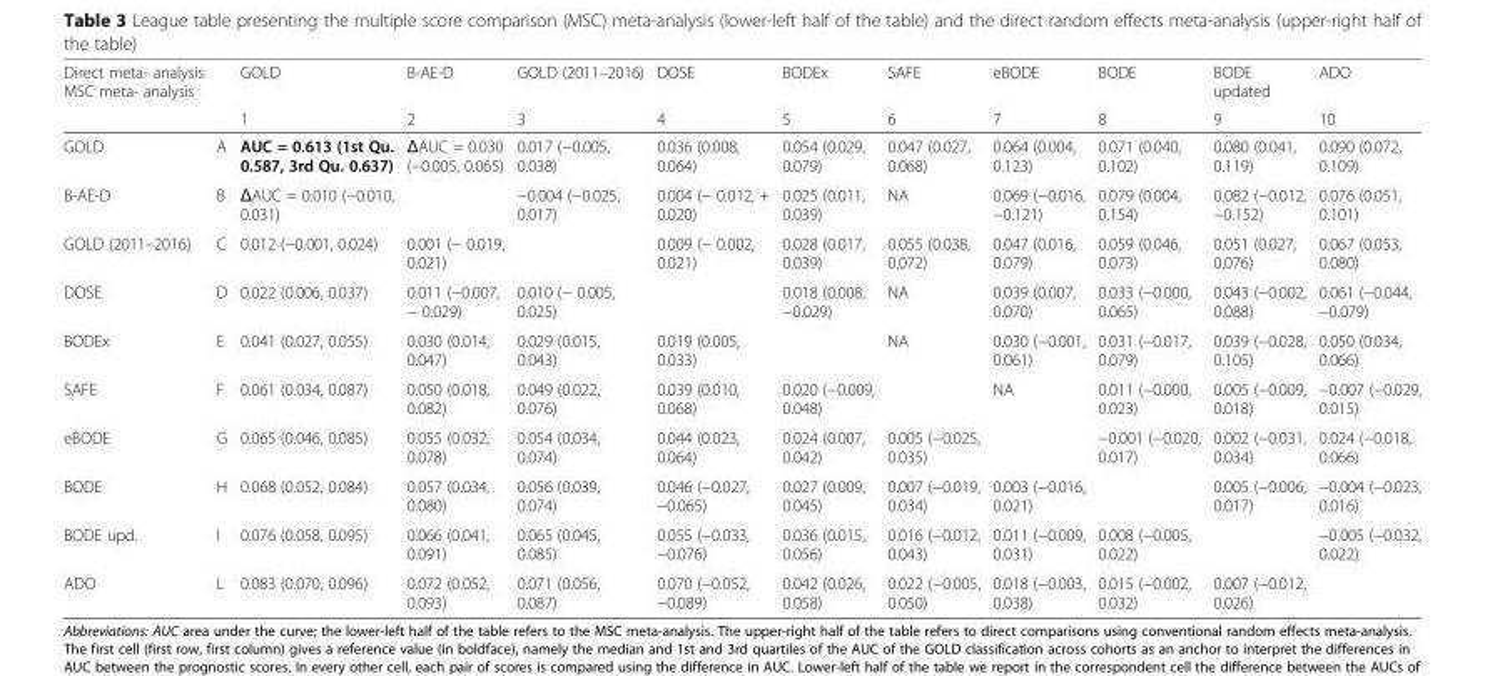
<table><thead><tr><td rowspan="2">Direct meta- analysis MSC meta- analysis</td><td rowspan="2"></td><td rowspan="2">GOLD 1</td><td rowspan="2">B-AE-D 2</td><td rowspan="2">GOLD (2011–2016) 3</td><td rowspan="2">DOSE 4</td><td rowspan="2">BODEx 5</td><td rowspan="2">SAFE 6</td><td rowspan="2">eBODE 7</td><td rowspan="2">BODE 8</td><td rowspan="2">BODE updated 9</td><td rowspan="2">ADO 10</td></tr><tr></tr></thead><tbody><tr><td>GOLD</td><td>A</td><td>AUC = 0.613 (1st Qu. 0.587, 3rd Qu. 0.637)</td><td>ΔAUC = 0.030 (−0.005, 0.065)</td><td>0.017 (−0.005, 0.038)</td><td>0.036 (0.008, 0.064)</td><td>0.054 (0.029, 0.079)</td><td>0.047 (0.027, 0.068)</td><td>0.064 (0.004, 0.123)</td><td>0.071 (0.040, 0.102)</td><td>0.080 (0.041, 0.119)</td><td>0.090 (0.072, 0.109)</td></tr><tr><td>B-AE-D</td><td>B</td><td>ΔAUC = 0.010 (−0.010, 0.031)</td><td></td><td>−0.004 (−0.025, 0.017)</td><td>0.004 (− 0.012, + 0.020)</td><td>0.025 (0.011, 0.039)</td><td>NA</td><td>0.069 (−0.016, −0.121)</td><td>0.079 (0.004, 0.154)</td><td>0.082 (−0.012, −0.152)</td><td>0.076 (0.051, 0.101)</td></tr><tr><td>GOLD (2011–2016)</td><td>C</td><td>0.012 (−0.001, 0.024)</td><td>0.001 (− 0.019, 0.021)</td><td></td><td>0.009 (− 0.002, 0.021)</td><td>0.028 (0.017, 0.039)</td><td>0.055 (0.038, 0.072)</td><td>0.047 (0.016, 0.079)</td><td>0.059 (0.046, 0.073)</td><td>0.051 (0.027, 0.076)</td><td>0.067 (0.053, 0.080)</td></tr><tr><td>DOSE</td><td>D</td><td>0.022 (0.006, 0.037)</td><td>0.011 (−0.007, − 0.029)</td><td>0.010 (− 0.005, 0.025)</td><td></td><td>0.018 (0.008, −0.029)</td><td>NA</td><td>0.039 (0.007, 0.070)</td><td>0.033 (−0.000, 0.065)</td><td>0.043 (−0.002, 0.088)</td><td>0.061 (−0.044, −0.079)</td></tr><tr><td>BODEx</td><td>E</td><td>0.041 (0.027, 0.055)</td><td>0.030 (0.014, 0.047)</td><td>0.029 (0.015, 0.043)</td><td>0.019 (0.005, 0.033)</td><td></td><td>NA</td><td>0.030 (−0.001, 0.061)</td><td>0.031 (−0.017, 0.079)</td><td>0.039 (−0.028, 0.105)</td><td>0.050 (0.034, 0.066)</td></tr><tr><td>SAFE</td><td>F</td><td>0.061 (0.034, 0.087)</td><td>0.050 (0.018, 0.082)</td><td>0.049 (0.022, 0.076)</td><td>0.039 (0.010, 0.068)</td><td>0.020 (−0.009, 0.048)</td><td></td><td>NA</td><td>0.011 (−0.000, 0.023)</td><td>0.005 (−0.009, 0.018)</td><td>−0.007 (−0.029, 0.015)</td></tr><tr><td>eBODE</td><td>G</td><td>0.065 (0.046, 0.085)</td><td>0.055 (0.032, 0.078)</td><td>0.054 (0.034, 0.074)</td><td>0.044 (0.023, 0.064)</td><td>0.024 (0.007, 0.042)</td><td>0.005 (−0.025, 0.035)</td><td></td><td>−0.001 (−0.020, 0.017)</td><td>0.002 (−0.031, 0.034)</td><td>0.024 (−0.018, 0.066)</td></tr><tr><td>BODE</td><td>H</td><td>0.068 (0.052, 0.084)</td><td>0.057 (0.034, 0.080)</td><td>0.056 (0.039, 0.074)</td><td>0.046 (−0.027, −0.065)</td><td>0.027 (0.009, 0.045)</td><td>0.007 (−0.019, 0.034)</td><td>0.003 (−0.016, 0.021)</td><td></td><td>0.005 (−0.006, 0.017)</td><td>−0.004 (−0.023, 0.016)</td></tr><tr><td>BODE upd.</td><td>I</td><td>0.076 (0.058, 0.095)</td><td>0.066 (0.041, 0.091)</td><td>0.065 (0.045, 0.085)</td><td>0.055 (−0.033, −0.076)</td><td>0.036 (0.015, 0.056)</td><td>0.016 (−0.012, 0.043)</td><td>0.011 (−0.009, 0.031)</td><td>0.008 (−0.005, 0.022)</td><td></td><td>−0.005 (−0.032, 0.022)</td></tr><tr><td>ADO</td><td>L</td><td>0.083 (0.070, 0.096)</td><td>0.072 (0.052, 0.093)</td><td>0.071 (0.056, 0.087)</td><td>0.070 (−0.052, −0.089)</td><td>0.042 (0.026, 0.058)</td><td>0.022 (−0.005, 0.050)</td><td>0.018 (−0.003, 0.038)</td><td>0.015 (−0.002, 0.032)</td><td>0.007 (−0.012, 0.026)</td><td></td></tr></tbody></table>